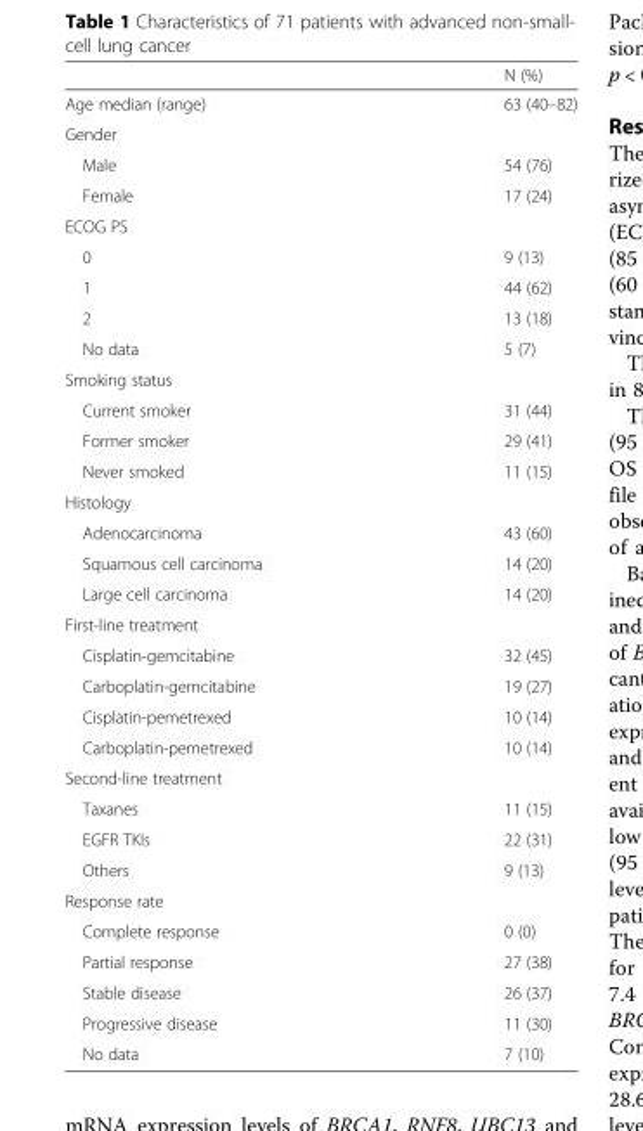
<table><thead><tr><td></td><td>N (%)</td></tr></thead><tbody><tr><td>Age median (range)</td><td>63 (40–82)</td></tr><tr><td colspan="2">Gender</td></tr><tr><td>Male</td><td>54 (76)</td></tr><tr><td>Female</td><td>17 (24)</td></tr><tr><td colspan="2">ECOG PS</td></tr><tr><td>0</td><td>9 (13)</td></tr><tr><td>1</td><td>44 (62)</td></tr><tr><td>2</td><td>13 (18)</td></tr><tr><td>No data</td><td>5 (7)</td></tr><tr><td colspan="2">Smoking status</td></tr><tr><td>Current smoker</td><td>31 (44)</td></tr><tr><td>Former smoker</td><td>29 (41)</td></tr><tr><td>Never smoked</td><td>11 (15)</td></tr><tr><td colspan="2">Histology</td></tr><tr><td>Adenocarcinoma</td><td>43 (60)</td></tr><tr><td>Squamous cell carcinoma</td><td>14 (20)</td></tr><tr><td>Large cell carcinoma</td><td>14 (20)</td></tr><tr><td colspan="2">First-line treatment</td></tr><tr><td>Cisplatin-gemcitabine</td><td>32 (45)</td></tr><tr><td>Carboplatin-gemcitabine</td><td>19 (27)</td></tr><tr><td>Cisplatin-pemetrexed</td><td>10 (14)</td></tr><tr><td>Carboplatin-pemetrexed</td><td>10 (14)</td></tr><tr><td colspan="2">Second-line treatment</td></tr><tr><td>Taxanes</td><td>11 (15)</td></tr><tr><td>EGFR TKIs</td><td>22 (31)</td></tr><tr><td>Others</td><td>9 (13)</td></tr><tr><td colspan="2">Response rate</td></tr><tr><td>Complete response</td><td>0 (0)</td></tr><tr><td>Partial response</td><td>27 (38)</td></tr><tr><td>Stable disease</td><td>26 (37)</td></tr><tr><td>Progressive disease</td><td>11 (30)</td></tr><tr><td>No data</td><td>7 (10)</td></tr></tbody></table>